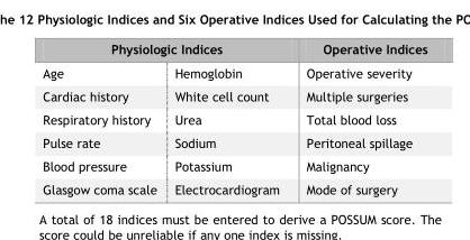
<table><thead><tr><td colspan="2">Physiologic Indices</td><td rowspan="2">Operative Indices Operative severity</td></tr><tr><td>Age</td><td>Hemoglobin</td></tr></thead><tbody><tr><td>Cardiac history</td><td>White cell count</td><td>Multiple surgeries</td></tr><tr><td>Respiratory history</td><td>Urea</td><td>Total blood loss</td></tr><tr><td>Pulse rate</td><td>Sodium</td><td>Peritoneal spillage</td></tr><tr><td>Blood pressure</td><td>Potassium</td><td>Malignancy</td></tr><tr><td>Glasgow coma scale</td><td>Electrocardiogram</td><td>Mode of surgery</td></tr></tbody></table>